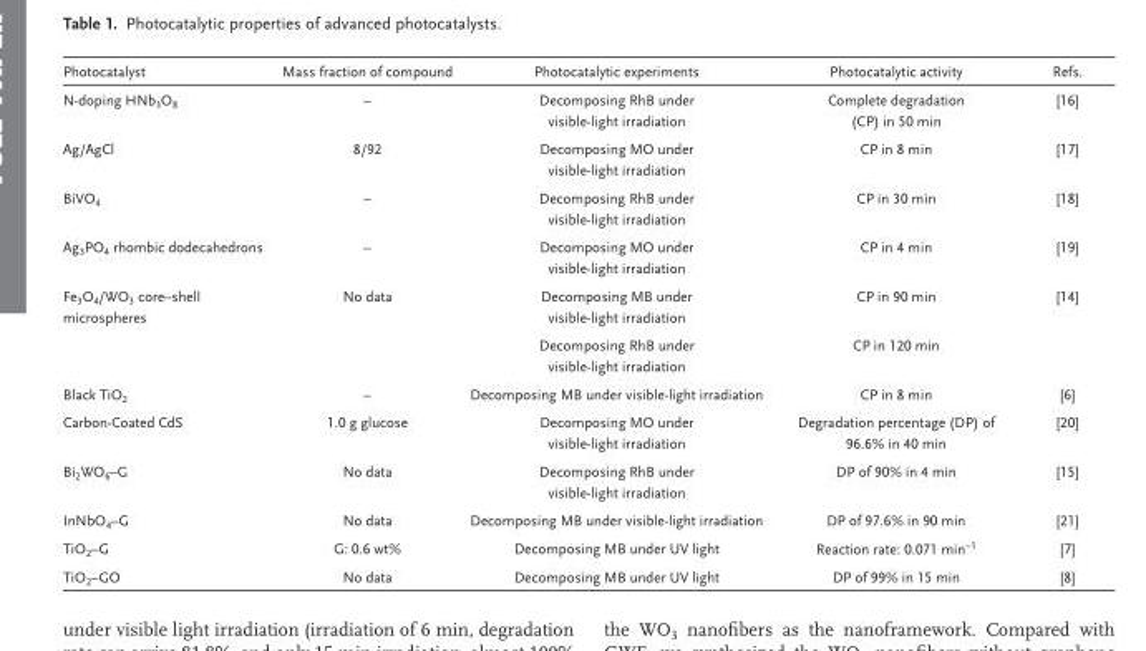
<table><thead><tr><td>Photocatalyst</td><td>Mass fraction of compound</td><td>Photocatalytic experiments</td><td>Photocatalytic activity</td><td>Refs.</td></tr></thead><tbody><tr><td>N-doping HNb <sub>3</sub> O <sub>8</sub></td><td>–</td><td>Decomposing RhB under visible-light irradiation</td><td>Complete degradation (CP) in 50 min</td><td>[16]</td></tr><tr><td>Ag/AgCl</td><td>8/92</td><td>Decomposing MO under visible-light irradiation</td><td>CP in 8 min</td><td>[ 1 7]</td></tr><tr><td>BiVO <sub>4</sub></td><td>–</td><td>Decomposing RhB under visible-light irradiation</td><td>CP in 30 min</td><td>[18]</td></tr><tr><td>Ag <sub>3</sub> PO <sub>4</sub> rhombic dodecahedrons</td><td>–</td><td>Decomposing MO under visible-light irradiation</td><td>CP in 4 min</td><td>[19]</td></tr><tr><td rowspan="2">Fe <sub>3</sub> O <sub>4</sub> /WO <sub>3</sub> core–shell microspheres</td><td>No data</td><td>Decomposing MB under visible-light irradiation</td><td>CP in 90 min</td><td>[14]</td></tr><tr><td></td><td>Decomposing RhB under visible-light irradiation</td><td>CP in 120 min</td><td></td></tr><tr><td>Black TiO <sub>2</sub></td><td>–</td><td>Decomposing MB under visible-light irradiation</td><td>CP in 8 min</td><td>[ 6 ]</td></tr><tr><td>Carbon-Coated CdS</td><td>1.0 g glucose</td><td>Decomposing MO under visible-light irradiation</td><td>Degradation percentage (DP) of 96.6% in 40 min</td><td>[20]</td></tr><tr><td>Bi <sub>2</sub> WO <sub>6</sub> –G</td><td>No data</td><td>Decomposing RhB under visible-light irradiation</td><td>DP of 90% in 4 min</td><td>[15]</td></tr><tr><td>InNbO <sub>4</sub> –G</td><td>No data</td><td>Decomposing MB under visible-light irradiation</td><td>DP of 97.6% in 90 min</td><td>[21]</td></tr><tr><td>TiO <sub>2</sub> –G</td><td>G: 0.6 wt%</td><td>Decomposing MB under UV light</td><td>Reaction rate: 0.071 min <sup>−1</sup></td><td>[7]</td></tr><tr><td>TiO <sub>2</sub> –GO</td><td>No data</td><td>Decomposing MB under UV light</td><td>DP of 99% in 15 min</td><td>[8]</td></tr></tbody></table>